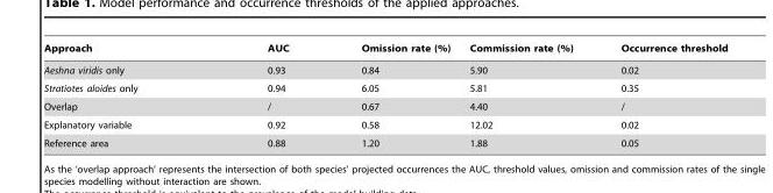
<table><thead><tr><td>Approach</td><td>AUC</td><td>Omission rate (%)</td><td>Commission rate (%)</td><td>Occurrence threshold</td></tr></thead><tbody><tr><td>Aeshna viridis only</td><td>0.93</td><td>0.84</td><td>5.90</td><td>0.02</td></tr><tr><td>Stratiotes aloides only</td><td>0.94</td><td>6.05</td><td>5.81</td><td>0.35</td></tr><tr><td>Overlap</td><td>/</td><td>0.67</td><td>4.40</td><td>/</td></tr><tr><td>Explanatory variable</td><td>0.92</td><td>0.58</td><td>12.02</td><td>0.02</td></tr><tr><td>Reference area</td><td>0.88</td><td>1.20</td><td>1.88</td><td>0.05</td></tr></tbody></table>